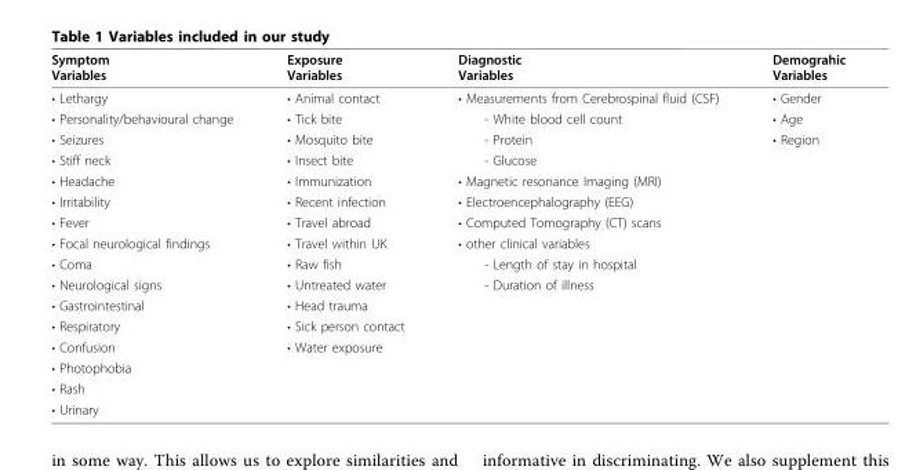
<table><thead><tr><td>Symptom Variables</td><td>Exposure Variables</td><td>Diagnostic Variables</td><td>Demograhic Variables</td></tr></thead><tbody><tr><td>• Lethargy</td><td>• Animal contact</td><td>• Measurements from Cerebrospinal fluid (CSF)</td><td>• Gender</td></tr><tr><td>• Personality/behavioural change</td><td>• Tick bite</td><td>- White blood cell count</td><td>• Age</td></tr><tr><td>• Seizures</td><td>• Mosquito bite</td><td>- Protein</td><td>• Region</td></tr><tr><td>• Stiff neck</td><td>• Insect bite</td><td>- Glucose</td><td></td></tr><tr><td>• Headache</td><td>• Immunization</td><td>• Magnetic resonance Imaging (MRI)</td><td></td></tr><tr><td>• Irritability</td><td>• Recent infection</td><td>• Electroencephalography (EEG)</td><td></td></tr><tr><td>• Fever</td><td>• Travel abroad</td><td>• Computed Tomography (CT) scans</td><td></td></tr><tr><td>• Focal neurological findings</td><td>• Travel within UK</td><td>• other clinical variables</td><td></td></tr><tr><td>• Coma</td><td>• Raw fish</td><td>- Length of stay in hospital</td><td></td></tr><tr><td>• Neurological signs</td><td>• Untreated water</td><td>- Duration of illness</td><td></td></tr><tr><td>• Gastrointestinal</td><td>• Head trauma</td><td></td><td></td></tr><tr><td>• Respiratory</td><td>• Sick person contact</td><td></td><td></td></tr><tr><td>• Confusion</td><td>• Water exposure</td><td></td><td></td></tr><tr><td colspan="4">• Photophobia</td></tr><tr><td colspan="4">• Rash</td></tr><tr><td>• Urinary</td><td></td><td></td><td></td></tr></tbody></table>